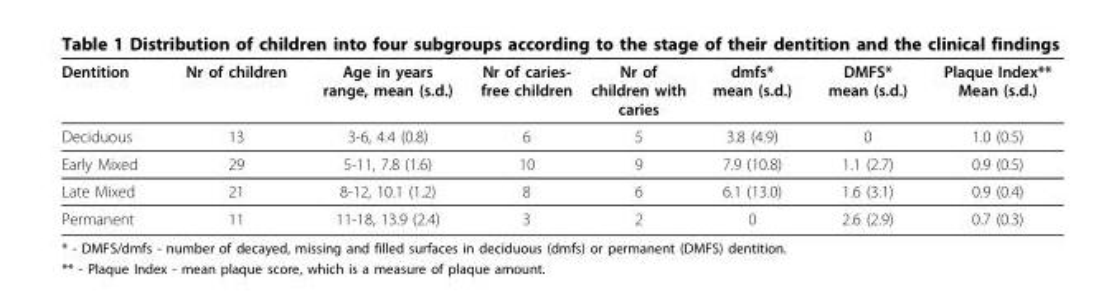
<table><thead><tr><td>Dentition</td><td>Nr of children</td><td>Age in years range, mean (s.d.)</td><td>Nr of caries- free children</td><td>Nr of children with caries</td><td>dmfs* mean (s.d.)</td><td>DMFS* mean (s.d.)</td><td>Plaque Index** Mean (s.d.)</td></tr></thead><tbody><tr><td>Deciduous</td><td>13</td><td>3-6, 4.4 (0.8)</td><td>6</td><td>5</td><td>3.8 (4.9)</td><td>0</td><td>1.0 (0.5)</td></tr><tr><td>Early Mixed</td><td>29</td><td>5-11, 7.8 (1.6)</td><td>10</td><td>9</td><td>7.9 (10.8)</td><td>1.1 (2.7)</td><td>0.9 (0.5)</td></tr><tr><td>Late Mixed</td><td>21</td><td>8-12, 10.1 (1.2)</td><td>8</td><td>6</td><td>6.1 (13.0)</td><td>1.6 (3.1)</td><td>0.9 (0.4)</td></tr><tr><td>Permanent</td><td>11</td><td>11-18, 13.9 (2.4)</td><td>3</td><td>2</td><td>0</td><td>2.6 (2.9)</td><td>0.7 (0.3)</td></tr></tbody></table>